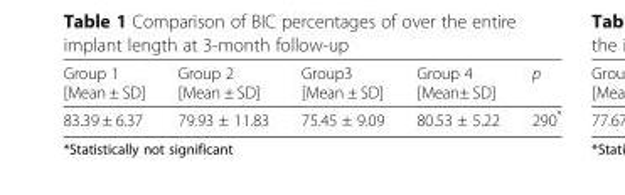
<table><thead><tr><td>Group 1 [Mean ± SD]</td><td>Group 2 [Mean ± SD]</td><td>Group3 [Mean ± SD]</td><td>Group 4 [Mean± SD]</td><td>p</td></tr></thead><tbody><tr><td>83.39 ± 6.37</td><td>79.93 ± 11.83</td><td>75.45 ± 9.09</td><td>80.53 ± 5.22</td><td>290*</td></tr></tbody></table>